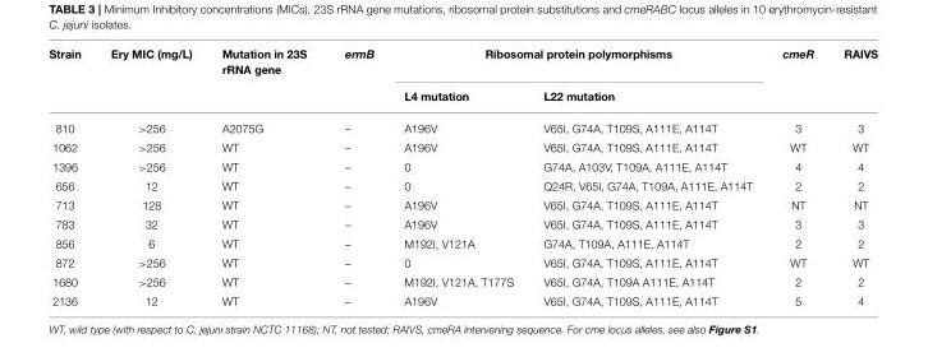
<table><thead><tr><td rowspan="2">Strain</td><td rowspan="2">Ery MIC (mg/L)</td><td rowspan="2">Mutation in 23S rRNA gene</td><td rowspan="2">ermB</td><td colspan="2">Ribosomal protein polymorphisms</td><td rowspan="2">cmeR</td><td rowspan="2">RAIVS</td></tr><tr><td>L4 mutation</td><td>L22 mutation</td></tr></thead><tbody><tr><td>810</td><td>&gt;256</td><td>A2075G</td><td>–</td><td>A196V</td><td>V65I, G74A, T109S, A111E, A114T</td><td>3</td><td>3</td></tr><tr><td>1062</td><td>&gt;256</td><td>WT</td><td>–</td><td>A196V</td><td>V65I, G74A, T109S, A111E, A114T</td><td>WT</td><td>WT</td></tr><tr><td>1396</td><td>&gt;256</td><td>WT</td><td>–</td><td>0</td><td>G74A, A103V, T109A, A111E, A114T</td><td>4</td><td>4</td></tr><tr><td>656</td><td>12</td><td>WT</td><td>–</td><td>0</td><td>Q24R, V65I, G74A, T109A, A111E, A114T</td><td>2</td><td>2</td></tr><tr><td>713</td><td>128</td><td>WT</td><td>–</td><td>A196V</td><td>V65I, G74A, T109S, A111E, A114T</td><td>NT</td><td>NT</td></tr><tr><td>783</td><td>32</td><td>WT</td><td>–</td><td>A196V</td><td>V65I, G74A, T109S, A111E, A114T</td><td>3</td><td>3</td></tr><tr><td>856</td><td>6</td><td>WT</td><td>–</td><td>M192I, V121A</td><td>G74A, T109A, A111E, A114T</td><td>2</td><td>2</td></tr><tr><td>872</td><td>&gt;256</td><td>WT</td><td>–</td><td>0</td><td>V65I, G74A, T109S, A111E, A114T</td><td>WT</td><td>WT</td></tr><tr><td>1680</td><td>&gt;256</td><td>WT</td><td>–</td><td>M192I, V121A, T177S</td><td>V65I, G74A, T109A A111E, A114T</td><td>2</td><td>2</td></tr><tr><td>2136</td><td>12</td><td>WT</td><td>–</td><td>A196V</td><td>V65I, G74A, T109S, A111E, A114T</td><td>5</td><td>4</td></tr></tbody></table>